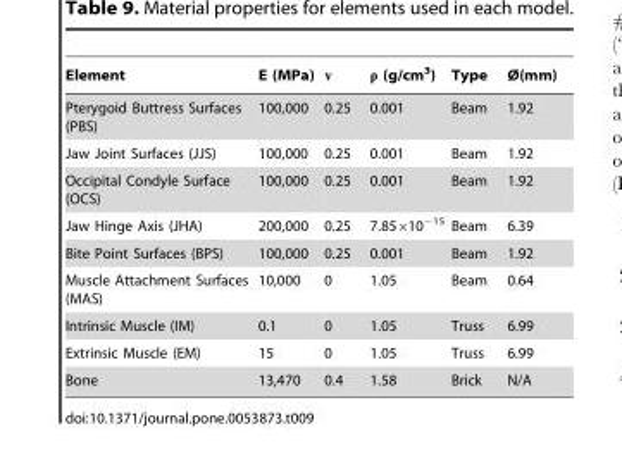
<table><thead><tr><td>Element</td><td>E (MPa)</td><td>ν</td><td>ρ (g/cm<sup>3</sup>)</td><td>Type</td><td>Ø(mm)</td></tr></thead><tbody><tr><td>Pterygoid Buttress Surfaces (PBS)</td><td>100,000</td><td>0.25</td><td>0.001</td><td>Beam</td><td>1.92</td></tr><tr><td>Jaw Joint Surfaces (JJS)</td><td>100,000</td><td>0.25</td><td>0.001</td><td>Beam</td><td>1.92</td></tr><tr><td>Occipital Condyle Surface (OCS)</td><td>100,000</td><td>0.25</td><td>0.001</td><td>Beam</td><td>1.92</td></tr><tr><td>Jaw Hinge Axis (JHA)</td><td>200,000</td><td>0.25</td><td>7.85×10<sup>−15</sup></td><td>Beam</td><td>6.39</td></tr><tr><td>Bite Point Surfaces (BPS)</td><td>100,000</td><td>0.25</td><td>0.001</td><td>Beam</td><td>1.92</td></tr><tr><td>Muscle Attachment Surfaces (MAS)</td><td>10,000</td><td>0</td><td>1.05</td><td>Beam</td><td>0.64</td></tr><tr><td>Intrinsic Muscle (IM)</td><td>0.1</td><td>0</td><td>1.05</td><td>Truss</td><td>6.99</td></tr><tr><td>Extrinsic Muscle (EM)</td><td>15</td><td>0</td><td>1.05</td><td>Truss</td><td>6.99</td></tr><tr><td>Bone</td><td>13,470</td><td>0.4</td><td>1.58</td><td>Brick</td><td>N/A</td></tr></tbody></table>